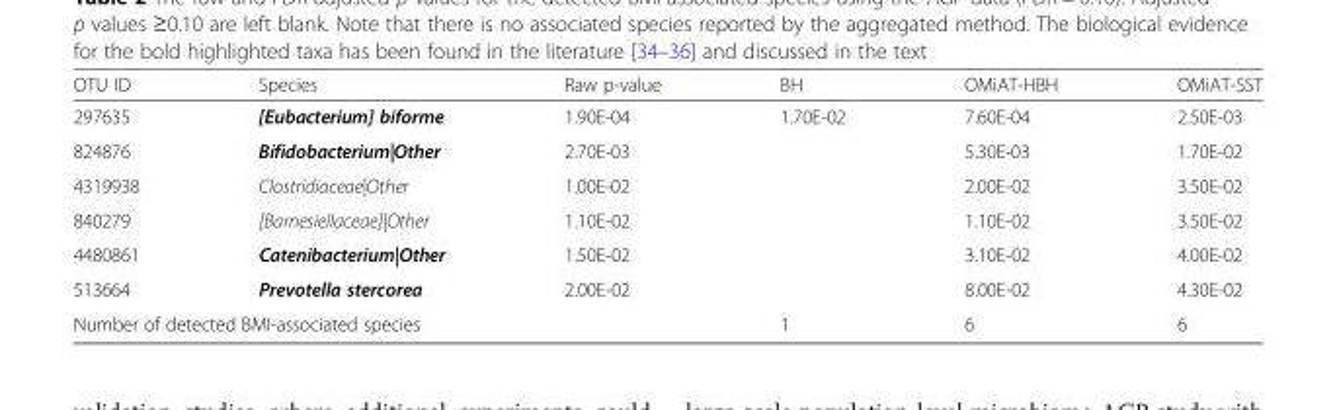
<table><thead><tr><td>OTU ID</td><td>Species</td><td>Raw p-value</td><td>BH</td><td>OMiAT-HBH</td><td>OMiAT-SST</td></tr></thead><tbody><tr><td>297635</td><td>[Eubacterium] biforme</td><td>1.90E-04</td><td>1.70E-02</td><td>7.60E-04</td><td>2.50E-03</td></tr><tr><td>824876</td><td>Bifidobacterium|Other</td><td>2.70E-03</td><td></td><td>5.30E-03</td><td>1.70E-02</td></tr><tr><td>4319938</td><td>Clostridiaceae|Other</td><td>1.00E-02</td><td></td><td>2.00E-02</td><td>3.50E-02</td></tr><tr><td>840279</td><td>[Barnesiellaceae]|Other</td><td>1.10E-02</td><td></td><td>1.10E-02</td><td>3.50E-02</td></tr><tr><td>4480861</td><td>Catenibacterium|Other</td><td>1.50E-02</td><td></td><td>3.10E-02</td><td>4.00E-02</td></tr><tr><td>513664</td><td>Prevotella stercorea</td><td>2.00E-02</td><td></td><td>8.00E-02</td><td>4.30E-02</td></tr><tr><td colspan="3">Number of detected BMI-associated species</td><td>1</td><td>6</td><td>6</td></tr></tbody></table>